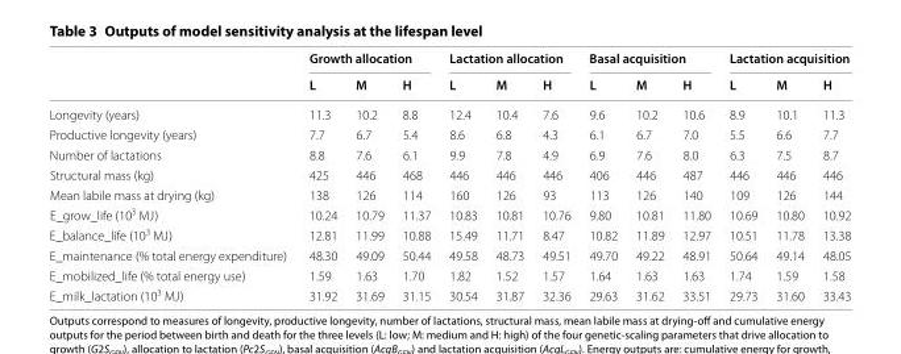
<table><thead><tr><td rowspan="2"></td><td colspan="3">Growth allocation</td><td colspan="3">Lactation allocation</td><td colspan="3">Basal acquisition</td><td colspan="3">Lactation acquisition</td></tr><tr><td>L</td><td>M</td><td>H</td><td>L</td><td>M</td><td>H</td><td>L</td><td>M</td><td>H</td><td>L</td><td>M</td><td>H</td></tr></thead><tbody><tr><td>Longevity (years)</td><td>11.3</td><td>10.2</td><td>8.8</td><td>12.4</td><td>10.4</td><td>7.6</td><td>9.6</td><td>10.2</td><td>10.6</td><td>8.9</td><td>10.1</td><td>11.3</td></tr><tr><td>Productive longevity (years)</td><td>7.7</td><td>6.7</td><td>5.4</td><td>8.6</td><td>6.8</td><td>4.3</td><td>6.1</td><td>6.7</td><td>7.0</td><td>5.5</td><td>6.6</td><td>7.7</td></tr><tr><td>Number of lactations</td><td>8.8</td><td>7.6</td><td>6.1</td><td>9.9</td><td>7.8</td><td>4.9</td><td>6.9</td><td>7.6</td><td>8.0</td><td>6.3</td><td>7.5</td><td>8.7</td></tr><tr><td>Structural mass (kg)</td><td>425</td><td>446</td><td>468</td><td>446</td><td>446</td><td>446</td><td>406</td><td>446</td><td>487</td><td>446</td><td>446</td><td>446</td></tr><tr><td>Mean labile mass at drying (kg)</td><td>138</td><td>126</td><td>114</td><td>160</td><td>126</td><td>93</td><td>113</td><td>126</td><td>140</td><td>109</td><td>126</td><td>144</td></tr><tr><td>E_grow_life (10<sup>3</sup> MJ)</td><td>10.24</td><td>10.79</td><td>11.37</td><td>10.83</td><td>10.81</td><td>10.76</td><td>9.80</td><td>10.81</td><td>11.80</td><td>10.69</td><td>10.80</td><td>10.92</td></tr><tr><td>E_balance_life (10<sup>3</sup> MJ)</td><td>12.81</td><td>11.99</td><td>10.88</td><td>15.49</td><td>11.71</td><td>8.47</td><td>10.82</td><td>11.89</td><td>12.97</td><td>10.51</td><td>11.78</td><td>13.38</td></tr><tr><td>E_maintenance (% total energy expenditure)</td><td>48.30</td><td>49.09</td><td>50.44</td><td>49.58</td><td>48.73</td><td>49.51</td><td>49.70</td><td>49.22</td><td>48.91</td><td>50.64</td><td>49.14</td><td>48.05</td></tr><tr><td>E_mobilized_life (% total energy use)</td><td>1.59</td><td>1.63</td><td>1.70</td><td>1.82</td><td>1.52</td><td>1.57</td><td>1.64</td><td>1.63</td><td>1.63</td><td>1.74</td><td>1.59</td><td>1.58</td></tr><tr><td>E_milk_lactation (10<sup>3</sup> MJ)</td><td>31.92</td><td>31.69</td><td>31.15</td><td>30.54</td><td>31.87</td><td>32.36</td><td>29.63</td><td>31.62</td><td>33.51</td><td>29.73</td><td>31.60</td><td>33.43</td></tr></tbody></table>